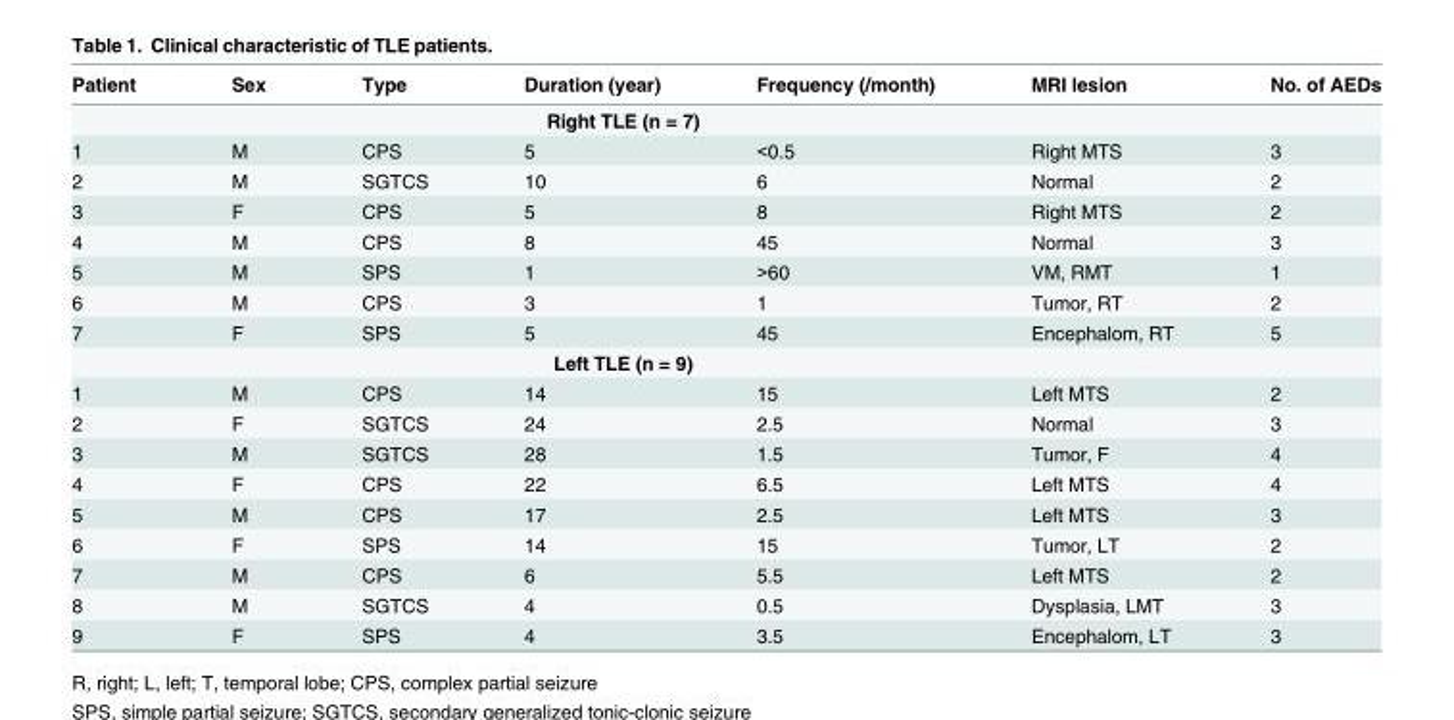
<table><thead><tr><td>Patient</td><td>Sex</td><td>Type</td><td>Duration (year)</td><td>Frequency (/month)</td><td>MRI lesion</td><td>No. of AEDs</td></tr></thead><tbody><tr><td colspan="7">Right TLE (n = 7)</td></tr><tr><td>1</td><td>M</td><td>CPS</td><td>5</td><td>&lt;0.5</td><td>Right MTS</td><td>3</td></tr><tr><td>2</td><td>M</td><td>SGTCS</td><td>10</td><td>6</td><td>Normal</td><td>2</td></tr><tr><td>3</td><td>F</td><td>CPS</td><td>5</td><td>8</td><td>Right MTS</td><td>2</td></tr><tr><td>4</td><td>M</td><td>CPS</td><td>8</td><td>45</td><td>Normal</td><td>3</td></tr><tr><td>5</td><td>M</td><td>SPS</td><td>1</td><td>&gt;60</td><td>VM, RMT</td><td>1</td></tr><tr><td>6</td><td>M</td><td>CPS</td><td>3</td><td>1</td><td>Tumor, RT</td><td>2</td></tr><tr><td>7</td><td>F</td><td>SPS</td><td>5</td><td>45</td><td>Encephalom, RT</td><td>5</td></tr><tr><td colspan="7">Left TLE (n = 9)</td></tr><tr><td>1</td><td>M</td><td>CPS</td><td>14</td><td>15</td><td>Left MTS</td><td>2</td></tr><tr><td>2</td><td>F</td><td>SGTCS</td><td>24</td><td>2.5</td><td>Normal</td><td>3</td></tr><tr><td>3</td><td>M</td><td>SGTCS</td><td>28</td><td>1.5</td><td>Tumor, F</td><td>4</td></tr><tr><td>4</td><td>F</td><td>CPS</td><td>22</td><td>6.5</td><td>Left MTS</td><td>4</td></tr><tr><td>5</td><td>M</td><td>CPS</td><td>17</td><td>2.5</td><td>Left MTS</td><td>3</td></tr><tr><td>6</td><td>F</td><td>SPS</td><td>14</td><td>15</td><td>Tumor, LT</td><td>2</td></tr><tr><td>7</td><td>M</td><td>CPS</td><td>6</td><td>5.5</td><td>Left MTS</td><td>2</td></tr><tr><td>8</td><td>M</td><td>SGTCS</td><td>4</td><td>0.5</td><td>Dysplasia, LMT</td><td>3</td></tr><tr><td>9</td><td>F</td><td>SPS</td><td>4</td><td>3.5</td><td>Encephalom, LT</td><td>3</td></tr></tbody></table>